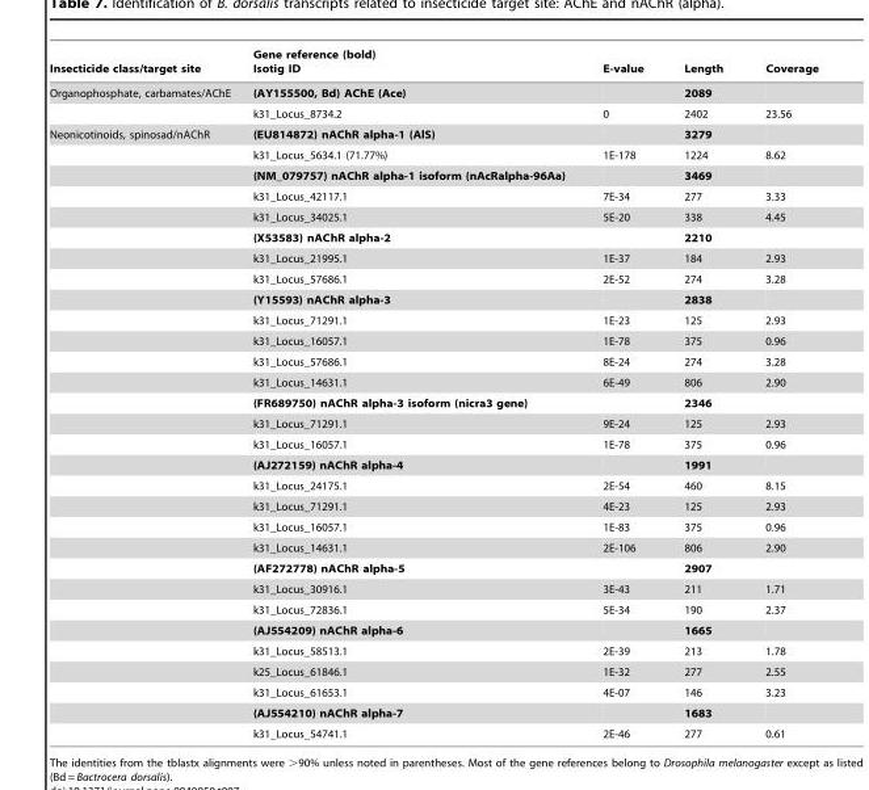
<table><thead><tr><td>Insecticide class/target site</td><td>Gene reference (bold) Isotig ID</td><td>E-value</td><td>Length</td><td>Coverage</td></tr></thead><tbody><tr><td rowspan="2">Organophosphate, carbamates/AChE</td><td>(AY155500, Bd) AChE (Ace)</td><td></td><td>2089</td><td></td></tr><tr><td>k31_Locus_8734.2</td><td>0</td><td>2402</td><td>23.56</td></tr><tr><td rowspan="30">Neonicotinoids, spinosad/nAChR</td><td>(EU814872) nAChR alpha-1 (AlS)</td><td></td><td>3279</td><td></td></tr><tr><td>k31_Locus_5634.1 (71.77%)</td><td>1E-178</td><td>1224</td><td>8.62</td></tr><tr><td>(NM_079757) nAChR alpha-1 isoform (nAcRalpha-96Aa)</td><td></td><td>3469</td><td></td></tr><tr><td>k31_Locus_42117.1</td><td>7E-34</td><td>277</td><td>3.33</td></tr><tr><td>k31_Locus_34025.1</td><td>5E-20</td><td>338</td><td>4.45</td></tr><tr><td>(X53583) nAChR alpha-2</td><td></td><td>2210</td><td></td></tr><tr><td>k31_Locus_21995.1</td><td>1E-37</td><td>184</td><td>2.93</td></tr><tr><td>k31_Locus_57686.1</td><td>2E-52</td><td>274</td><td>3.28</td></tr><tr><td>(Y15593) nAChR alpha-3</td><td></td><td>2838</td><td></td></tr><tr><td>k31_Locus_71291.1</td><td>1E-23</td><td>125</td><td>2.93</td></tr><tr><td>k31_Locus_16057.1</td><td>1E-78</td><td>375</td><td>0.96</td></tr><tr><td>k31_Locus_57686.1</td><td>8E-24</td><td>274</td><td>3.28</td></tr><tr><td>k31_Locus_14631.1</td><td>6E-49</td><td>806</td><td>2.90</td></tr><tr><td>(FR689750) nAChR alpha-3 isoform (nicra3 gene)</td><td></td><td>2346</td><td></td></tr><tr><td>k31_Locus_71291.1</td><td>9E-24</td><td>125</td><td>2.93</td></tr><tr><td>k31_Locus_16057.1</td><td>1E-78</td><td>375</td><td>0.96</td></tr><tr><td>(AJ272159) nAChR alpha-4</td><td></td><td>1991</td><td></td></tr><tr><td>k31_Locus_24175.1</td><td>2E-54</td><td>460</td><td>8.15</td></tr><tr><td>k31_Locus_71291.1</td><td>4E-23</td><td>125</td><td>2.93</td></tr><tr><td>k31_Locus_16057.1</td><td>1E-83</td><td>375</td><td>0.96</td></tr><tr><td>k31_Locus_14631.1</td><td>2E-106</td><td>806</td><td>2.90</td></tr><tr><td>(AF272778) nAChR alpha-5</td><td></td><td>2907</td><td></td></tr><tr><td>k31_Locus_30916.1</td><td>3E-43</td><td>211</td><td>1.71</td></tr><tr><td>k31_Locus_72836.1</td><td>5E-34</td><td>190</td><td>2.37</td></tr><tr><td>(AJ554209) nAChR alpha-6</td><td></td><td>1665</td><td></td></tr><tr><td>k31_Locus_58513.1</td><td>2E-39</td><td>213</td><td>1.78</td></tr><tr><td>k25_Locus_61846.1</td><td>1E-32</td><td>277</td><td>2.55</td></tr><tr><td>k31_Locus_61653.1</td><td>4E-07</td><td>146</td><td>3.23</td></tr><tr><td>(AJ554210) nAChR alpha-7</td><td></td><td>1683</td><td></td></tr><tr><td>k31_Locus_54741.1</td><td>2E-46</td><td>277</td><td>0.61</td></tr></tbody></table>